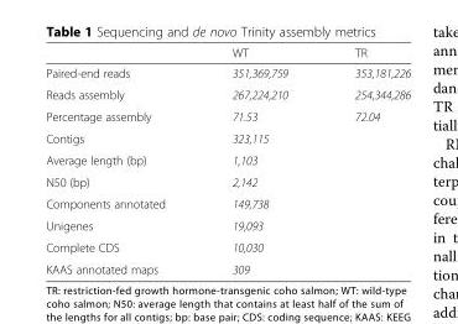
<table><thead><tr><td></td><td>WT</td><td>TR</td></tr></thead><tbody><tr><td>Paired-end reads</td><td>351,369,759</td><td>353,181,226</td></tr><tr><td>Reads assembly</td><td>267,224,210</td><td>254,344,286</td></tr><tr><td>Percentage assembly</td><td>71.53</td><td>72.04</td></tr><tr><td>Contigs</td><td colspan="2">323,115</td></tr><tr><td>Average length (bp)</td><td colspan="2">1,103</td></tr><tr><td>N50 (bp)</td><td colspan="2">2,142</td></tr><tr><td>Components annotated</td><td colspan="2">149,738</td></tr><tr><td>Unigenes</td><td colspan="2">19,093</td></tr><tr><td>Complete CDS</td><td colspan="2">10,030</td></tr><tr><td>KAAS annotated maps</td><td colspan="2">309</td></tr></tbody></table>